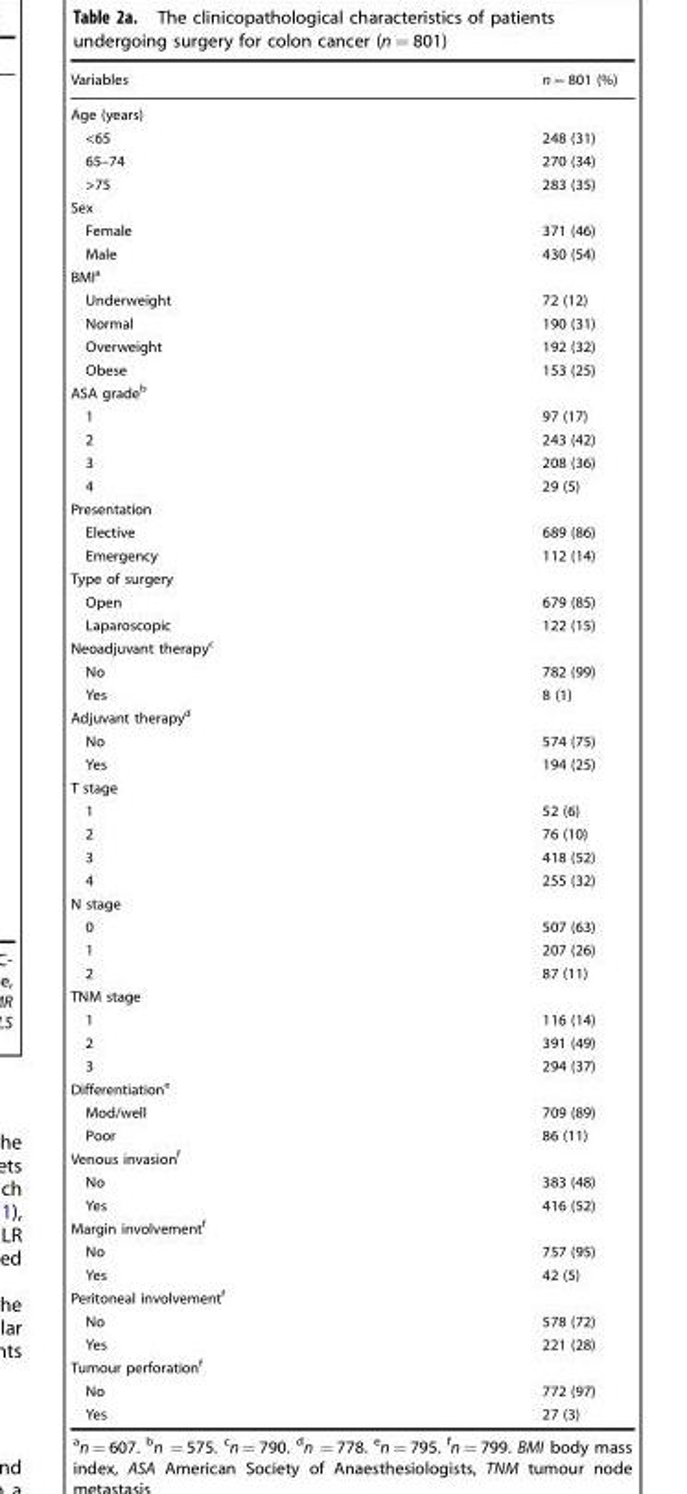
<table><thead><tr><td>Variables</td><td>n = 801 (%)</td></tr></thead><tbody><tr><td colspan="2">Age (years)</td></tr><tr><td>&lt;65</td><td>248 (31)</td></tr><tr><td>65–74</td><td>270 (34)</td></tr><tr><td>&gt;75</td><td>283 (35)</td></tr><tr><td colspan="2">Sex</td></tr><tr><td>Female</td><td>371 (46)</td></tr><tr><td>Male</td><td>430 (54)</td></tr><tr><td colspan="2">BMI<sup>a</sup></td></tr><tr><td>Underweight</td><td>72 (12)</td></tr><tr><td>Normal</td><td>190 (31)</td></tr><tr><td>Overweight</td><td>192 (32)</td></tr><tr><td>Obese</td><td>153 (25)</td></tr><tr><td colspan="2">ASA grade<sup>b</sup></td></tr><tr><td>1</td><td>97 (17)</td></tr><tr><td>2</td><td>243 (42)</td></tr><tr><td>3</td><td>208 (36)</td></tr><tr><td>4</td><td>29 (5)</td></tr><tr><td colspan="2">Presentation</td></tr><tr><td>Elective</td><td>689 (86)</td></tr><tr><td>Emergency</td><td>112 (14)</td></tr><tr><td colspan="2">Type of surgery</td></tr><tr><td>Open</td><td>679 (85)</td></tr><tr><td>Laparoscopic</td><td>122 (15)</td></tr><tr><td colspan="2">Neoadjuvant therapy<sup>c</sup></td></tr><tr><td>No</td><td>782 (99)</td></tr><tr><td>Yes</td><td>8 (1)</td></tr><tr><td colspan="2">Adjuvant therapy<sup>d</sup></td></tr><tr><td>No</td><td>574 (75)</td></tr><tr><td>Yes</td><td>194 (25)</td></tr><tr><td colspan="2">T stage</td></tr><tr><td>1</td><td>52 (6)</td></tr><tr><td>2</td><td>76 (10)</td></tr><tr><td>3</td><td>418 (52)</td></tr><tr><td>4</td><td>255 (32)</td></tr><tr><td colspan="2">N stage</td></tr><tr><td>0</td><td>507 (63)</td></tr><tr><td>1</td><td>207 (26)</td></tr><tr><td>2</td><td>87 (11)</td></tr><tr><td colspan="2">TNM stage</td></tr><tr><td>1</td><td>116 (14)</td></tr><tr><td>2</td><td>391 (49)</td></tr><tr><td>3</td><td>294 (37)</td></tr><tr><td colspan="2">Differentiation<sup>e</sup></td></tr><tr><td>Mod/well</td><td>709 (89)</td></tr><tr><td>Poor</td><td>86 (11)</td></tr><tr><td colspan="2">Venous invasion<sup>f</sup></td></tr><tr><td>No</td><td>383 (48)</td></tr><tr><td>Yes</td><td>416 (52)</td></tr><tr><td colspan="2">Margin involvement<sup>f</sup></td></tr><tr><td>No</td><td>757 (95)</td></tr><tr><td>Yes</td><td>42 (5)</td></tr><tr><td colspan="2">Peritoneal involvement<sup>f</sup></td></tr><tr><td>No</td><td>578 (72)</td></tr><tr><td>Yes</td><td>221 (28)</td></tr><tr><td colspan="2">Tumour perforation<sup>f</sup></td></tr><tr><td>No</td><td>772 (97)</td></tr><tr><td>Yes</td><td>27 (3)</td></tr></tbody></table>